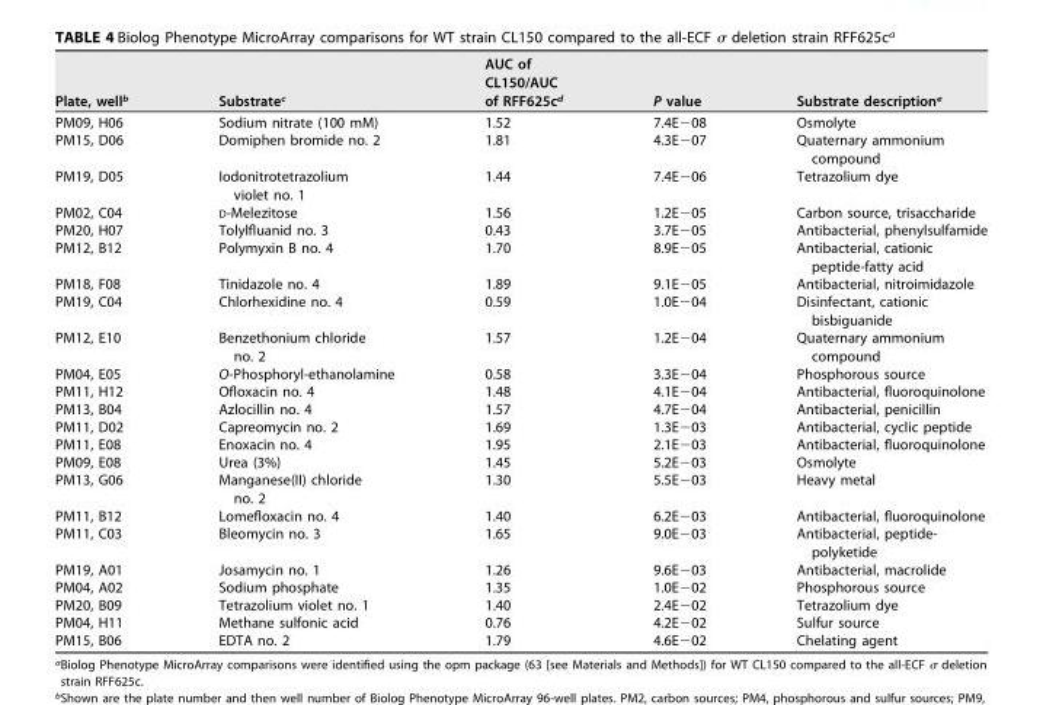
<table><thead><tr><td>Plate, well<sup>b</sup></td><td>Substrate<sup>c</sup></td><td>AUC of CL150/AUC of RFF625c<sup>d</sup></td><td>P value</td><td>Substrate description<sup>e</sup></td></tr></thead><tbody><tr><td>PM09, H06</td><td>Sodium nitrate (100 mM)</td><td>1.52</td><td>7.4E−08</td><td>Osmolyte</td></tr><tr><td>PM15, D06</td><td>Domiphen bromide no. 2</td><td>1.81</td><td>4.3E−07</td><td>Quaternary ammonium compound</td></tr><tr><td>PM19, D05</td><td>Iodonitrotetrazolium violet no. 1</td><td>1.44</td><td>7.4E−06</td><td>Tetrazolium dye</td></tr><tr><td>PM02, C04</td><td>D-Melezitose</td><td>1.56</td><td>1.2E−05</td><td>Carbon source, trisaccharide</td></tr><tr><td>PM20, H07</td><td>Tolylfluanid no. 3</td><td>0.43</td><td>3.7E−05</td><td>Antibacterial, phenylsulfamide</td></tr><tr><td>PM12, B12</td><td>Polymyxin B no. 4</td><td>1.70</td><td>8.9E−05</td><td>Antibacterial, cationic peptide-fatty acid</td></tr><tr><td>PM18, F08</td><td>Tinidazole no. 4</td><td>1.89</td><td>9.1E−05</td><td>Antibacterial, nitroimidazole</td></tr><tr><td>PM19, C04</td><td>Chlorhexidine no. 4</td><td>0.59</td><td>1.0E−04</td><td>Disinfectant, cationic bisbiguanide</td></tr><tr><td>PM12, E10</td><td>Benzethonium chloride no. 2</td><td>1.57</td><td>1.2E−04</td><td>Quaternary ammonium compound</td></tr><tr><td>PM04, E05</td><td>O-Phosphoryl-ethanolamine</td><td>0.58</td><td>3.3E−04</td><td>Phosphorous source</td></tr><tr><td>PM11, H12</td><td>Ofloxacin no. 4</td><td>1.48</td><td>4.1E−04</td><td>Antibacterial, fluoroquinolone</td></tr><tr><td>PM13, B04</td><td>Azlocillin no. 4</td><td>1.57</td><td>4.7E−04</td><td>Antibacterial, penicillin</td></tr><tr><td>PM11, D02</td><td>Capreomycin no. 2</td><td>1.69</td><td>1.3E−03</td><td>Antibacterial, cyclic peptide</td></tr><tr><td>PM11, E08</td><td>Enoxacin no. 4</td><td>1.95</td><td>2.1E−03</td><td>Antibacterial, fluoroquinolone</td></tr><tr><td>PM09, E08</td><td>Urea (3%)</td><td>1.45</td><td>5.2E−03</td><td>Osmolyte</td></tr><tr><td>PM13, G06</td><td>Manganese(II) chloride no. 2</td><td>1.30</td><td>5.5E−03</td><td>Heavy metal</td></tr><tr><td>PM11, B12</td><td>Lomefloxacin no. 4</td><td>1.40</td><td>6.2E−03</td><td>Antibacterial, fluoroquinolone</td></tr><tr><td>PM11, C03</td><td>Bleomycin no. 3</td><td>1.65</td><td>9.0E−03</td><td>Antibacterial, peptide- polyketide</td></tr><tr><td>PM19, A01</td><td>Josamycin no. 1</td><td>1.26</td><td>9.6E−03</td><td>Antibacterial, macrolide</td></tr><tr><td>PM04, A02</td><td>Sodium phosphate</td><td>1.35</td><td>1.0E−02</td><td>Phosphorous source</td></tr><tr><td>PM20, B09</td><td>Tetrazolium violet no. 1</td><td>1.40</td><td>2.4E−02</td><td>Tetrazolium dye</td></tr><tr><td>PM04, H11</td><td>Methane sulfonic acid</td><td>0.76</td><td>4.2E−02</td><td>Sulfur source</td></tr><tr><td>PM15, B06</td><td>EDTA no. 2</td><td>1.79</td><td>4.6E−02</td><td>Chelating agent</td></tr></tbody></table>